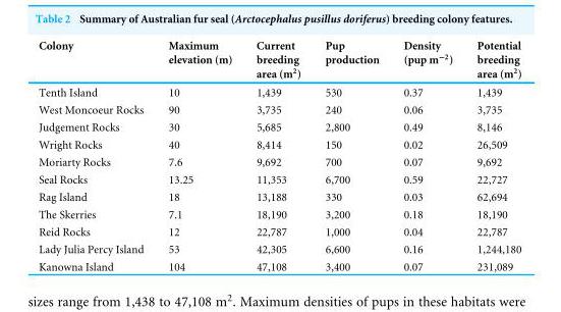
<table><thead><tr><td>Colony</td><td>Maximum elevation (m)</td><td>Current breeding area (m<sup>2</sup>)</td><td>Pup production</td><td>Density (pup m<sup>−2</sup>)</td><td>Potential breeding area (m<sup>2</sup>)</td></tr></thead><tbody><tr><td>Tenth Island</td><td>10</td><td>1,439</td><td>530</td><td>0.37</td><td>1,439</td></tr><tr><td>West Moncoeur Rocks</td><td>90</td><td>3,735</td><td>240</td><td>0.06</td><td>3,735</td></tr><tr><td>Judgement Rocks</td><td>30</td><td>5,685</td><td>2,800</td><td>0.49</td><td>8,146</td></tr><tr><td>Wright Rocks</td><td>40</td><td>8,414</td><td>150</td><td>0.02</td><td>26,509</td></tr><tr><td>Moriarty Rocks</td><td>7.6</td><td>9,692</td><td>700</td><td>0.07</td><td>9,692</td></tr><tr><td>Seal Rocks</td><td>13.25</td><td>11,353</td><td>6,700</td><td>0.59</td><td>22,727</td></tr><tr><td>Rag Island</td><td>18</td><td>13,188</td><td>330</td><td>0.03</td><td>62,694</td></tr><tr><td>The Skerries</td><td>7.1</td><td>18,190</td><td>3,200</td><td>0.18</td><td>18,190</td></tr><tr><td>Reid Rocks</td><td>12</td><td>22,787</td><td>1,000</td><td>0.04</td><td>22,787</td></tr><tr><td>Lady Julia Percy Island</td><td>53</td><td>42,305</td><td>6,600</td><td>0.16</td><td>1,244,180</td></tr><tr><td>Kanowna Island</td><td>104</td><td>47,108</td><td>3,400</td><td>0.07</td><td>231,089</td></tr></tbody></table>